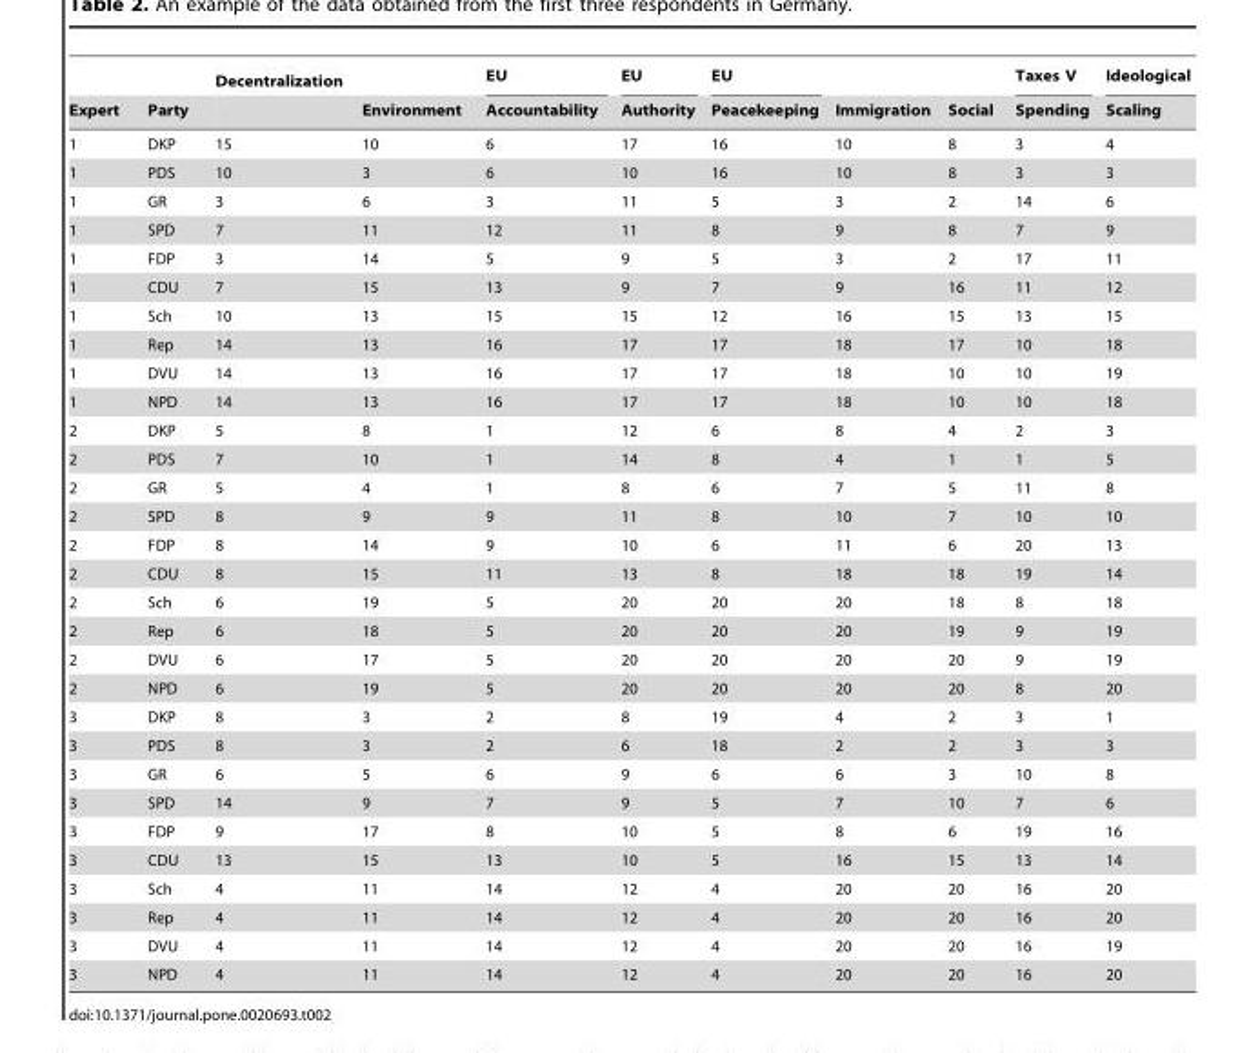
<table><thead><tr><td rowspan="2">Expert</td><td rowspan="2">Party</td><td rowspan="2">Decentralization</td><td rowspan="2">Environment</td><td rowspan="2">EU Accountability</td><td rowspan="2">EU Authority</td><td rowspan="2">EU Peacekeeping</td><td rowspan="2">Immigration</td><td rowspan="2">Social</td><td rowspan="2">Taxes V Spending</td><td rowspan="2">Ideological Scaling</td></tr><tr></tr></thead><tbody><tr><td>1</td><td>DKP</td><td>15</td><td>10</td><td>6</td><td>17</td><td>16</td><td>10</td><td>8</td><td>3</td><td>4</td></tr><tr><td>1</td><td>PDS</td><td>10</td><td>3</td><td>6</td><td>10</td><td>16</td><td>10</td><td>8</td><td>3</td><td>3</td></tr><tr><td>1</td><td>GR</td><td>3</td><td>6</td><td>3</td><td>11</td><td>5</td><td>3</td><td>2</td><td>14</td><td>6</td></tr><tr><td>1</td><td>SPD</td><td>7</td><td>11</td><td>12</td><td>11</td><td>8</td><td>9</td><td>8</td><td>7</td><td>9</td></tr><tr><td>1</td><td>FDP</td><td>3</td><td>14</td><td>5</td><td>9</td><td>5</td><td>3</td><td>2</td><td>17</td><td>11</td></tr><tr><td>1</td><td>CDU</td><td>7</td><td>15</td><td>13</td><td>9</td><td>7</td><td>9</td><td>16</td><td>11</td><td>12</td></tr><tr><td>1</td><td>Sch</td><td>10</td><td>13</td><td>15</td><td>15</td><td>12</td><td>16</td><td>15</td><td>13</td><td>15</td></tr><tr><td>1</td><td>Rep</td><td>14</td><td>13</td><td>16</td><td>17</td><td>17</td><td>18</td><td>17</td><td>10</td><td>18</td></tr><tr><td>1</td><td>DVU</td><td>14</td><td>13</td><td>16</td><td>17</td><td>17</td><td>18</td><td>10</td><td>10</td><td>19</td></tr><tr><td>1</td><td>NPD</td><td>14</td><td>13</td><td>16</td><td>17</td><td>17</td><td>18</td><td>10</td><td>10</td><td>18</td></tr><tr><td>2</td><td>DKP</td><td>5</td><td>8</td><td>1</td><td>12</td><td>6</td><td>8</td><td>4</td><td>2</td><td>3</td></tr><tr><td>2</td><td>PDS</td><td>7</td><td>10</td><td>1</td><td>14</td><td>8</td><td>4</td><td>1</td><td>1</td><td>5</td></tr><tr><td>2</td><td>GR</td><td>5</td><td>4</td><td>1</td><td>8</td><td>6</td><td>7</td><td>5</td><td>11</td><td>8</td></tr><tr><td>2</td><td>SPD</td><td>8</td><td>9</td><td>9</td><td>11</td><td>8</td><td>10</td><td>7</td><td>10</td><td>10</td></tr><tr><td>2</td><td>FDP</td><td>8</td><td>14</td><td>9</td><td>10</td><td>6</td><td>11</td><td>6</td><td>20</td><td>13</td></tr><tr><td>2</td><td>CDU</td><td>8</td><td>15</td><td>11</td><td>13</td><td>8</td><td>18</td><td>18</td><td>19</td><td>14</td></tr><tr><td>2</td><td>Sch</td><td>6</td><td>19</td><td>5</td><td>20</td><td>20</td><td>20</td><td>18</td><td>8</td><td>18</td></tr><tr><td>2</td><td>Rep</td><td>6</td><td>18</td><td>5</td><td>20</td><td>20</td><td>20</td><td>19</td><td>9</td><td>19</td></tr><tr><td>2</td><td>DVU</td><td>6</td><td>17</td><td>5</td><td>20</td><td>20</td><td>20</td><td>20</td><td>9</td><td>19</td></tr><tr><td>2</td><td>NPD</td><td>6</td><td>19</td><td>5</td><td>20</td><td>20</td><td>20</td><td>20</td><td>8</td><td>20</td></tr><tr><td>3</td><td>DKP</td><td>8</td><td>3</td><td>2</td><td>8</td><td>19</td><td>4</td><td>2</td><td>3</td><td>1</td></tr><tr><td>3</td><td>PDS</td><td>8</td><td>3</td><td>2</td><td>6</td><td>18</td><td>2</td><td>2</td><td>3</td><td>3</td></tr><tr><td>3</td><td>GR</td><td>6</td><td>5</td><td>6</td><td>9</td><td>6</td><td>6</td><td>3</td><td>10</td><td>8</td></tr><tr><td>3</td><td>SPD</td><td>14</td><td>9</td><td>7</td><td>9</td><td>5</td><td>7</td><td>10</td><td>7</td><td>6</td></tr><tr><td>3</td><td>FDP</td><td>9</td><td>17</td><td>8</td><td>10</td><td>5</td><td>8</td><td>6</td><td>19</td><td>16</td></tr><tr><td>3</td><td>CDU</td><td>13</td><td>15</td><td>13</td><td>10</td><td>5</td><td>16</td><td>15</td><td>13</td><td>14</td></tr><tr><td>3</td><td>Sch</td><td>4</td><td>11</td><td>14</td><td>12</td><td>4</td><td>20</td><td>20</td><td>16</td><td>20</td></tr><tr><td>3</td><td>Rep</td><td>4</td><td>11</td><td>14</td><td>12</td><td>4</td><td>20</td><td>20</td><td>16</td><td>20</td></tr><tr><td>3</td><td>DVU</td><td>4</td><td>11</td><td>14</td><td>12</td><td>4</td><td>20</td><td>20</td><td>16</td><td>19</td></tr><tr><td>3</td><td>NPD</td><td>4</td><td>11</td><td>14</td><td>12</td><td>4</td><td>20</td><td>20</td><td>16</td><td>20</td></tr></tbody></table>